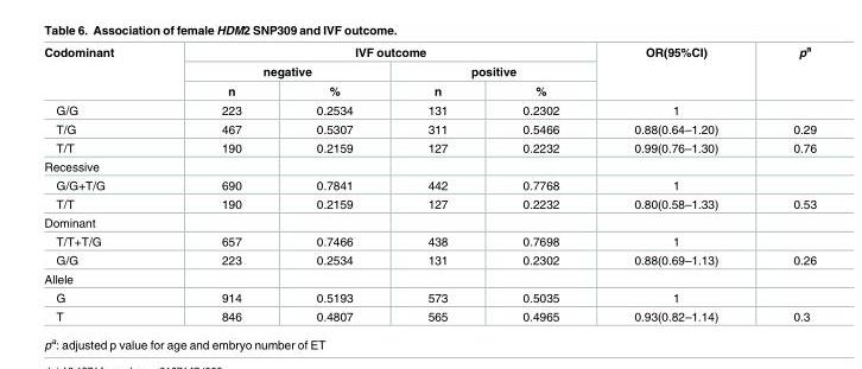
<table><thead><tr><td rowspan="3">Codominant</td><td colspan="4">IVF outcome</td><td rowspan="3">OR(95%CI)</td><td rowspan="3">p<sup>a</sup></td></tr><tr><td colspan="2">negative</td><td colspan="2">positive</td></tr><tr><td>n</td><td>%</td><td>n</td><td>%</td></tr></thead><tbody><tr><td>G/G</td><td>223</td><td>0.2534</td><td>131</td><td>0.2302</td><td>1</td><td></td></tr><tr><td>T/G</td><td>467</td><td>0.5307</td><td>311</td><td>0.5466</td><td>0.88(0.64–1.20)</td><td>0.29</td></tr><tr><td>T/T</td><td>190</td><td>0.2159</td><td>127</td><td>0.2232</td><td>0.99(0.76–1.30)</td><td>0.76</td></tr><tr><td colspan="7">Recessive</td></tr><tr><td>G/G+T/G</td><td>690</td><td>0.7841</td><td>442</td><td>0.7768</td><td>1</td><td></td></tr><tr><td>T/T</td><td>190</td><td>0.2159</td><td>127</td><td>0.2232</td><td>0.80(0.58–1.33)</td><td>0.53</td></tr><tr><td colspan="7">Dominant</td></tr><tr><td>T/T+T/G</td><td>657</td><td>0.7466</td><td>438</td><td>0.7698</td><td>1</td><td></td></tr><tr><td>G/G</td><td>223</td><td>0.2534</td><td>131</td><td>0.2302</td><td>0.88(0.69–1.13)</td><td>0.26</td></tr><tr><td colspan="7">Allele</td></tr><tr><td>G</td><td>914</td><td>0.5193</td><td>573</td><td>0.5035</td><td>1</td><td></td></tr><tr><td>T</td><td>846</td><td>0.4807</td><td>565</td><td>0.4965</td><td>0.93(0.82–1.14)</td><td>0.3</td></tr></tbody></table>